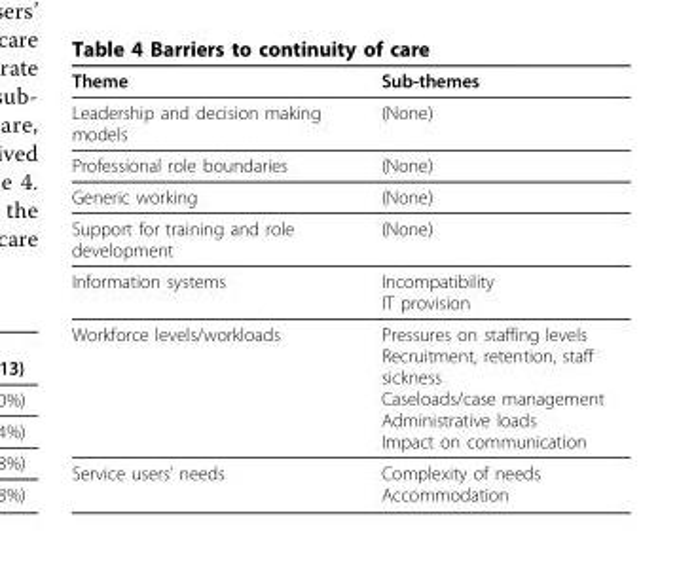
<table><thead><tr><td>Theme</td><td>Sub-themes</td></tr></thead><tbody><tr><td>Leadership and decision making models</td><td>(None)</td></tr><tr><td>Professional role boundaries</td><td>(None)</td></tr><tr><td>Generic working</td><td>(None)</td></tr><tr><td>Support for training and role development</td><td>(None)</td></tr><tr><td>Information systems</td><td>Incompatibility IT provision</td></tr><tr><td>Workforce levels/workloads</td><td>Pressures on staffing levels Recruitment, retention, staff sickness Caseloads/case management Administrative loads Impact on communication</td></tr><tr><td>Service users’ needs</td><td>Complexity of needs Accommodation</td></tr></tbody></table>